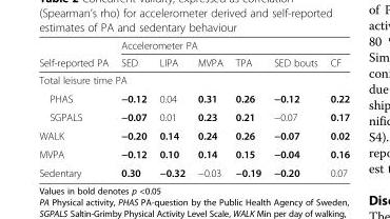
<table><thead><tr><td rowspan="2">Self-reported PA</td><td colspan="6">Accelerometer PA</td></tr><tr><td>SED</td><td>LIPA</td><td>MVPA</td><td>TPA</td><td>SED bouts</td><td>CF</td></tr></thead><tbody><tr><td colspan="7">Total leisure time PA</td></tr><tr><td>PHAS</td><td>−0.12</td><td>0.04</td><td>0.31</td><td>0.26</td><td>−0.12</td><td>0.22</td></tr><tr><td>SGPALS</td><td>−0.07</td><td>0.01</td><td>0.23</td><td>0.21</td><td>−0.07</td><td>0.17</td></tr><tr><td>WALK</td><td>−0.20</td><td>0.14</td><td>0.24</td><td>0.26</td><td>−0.07</td><td>0.02</td></tr><tr><td>MVPA</td><td>−0.12</td><td>0.10</td><td>0.14</td><td>0.15</td><td>−0.04</td><td>0.16</td></tr><tr><td>Sedentary</td><td>0.30</td><td>−0.32</td><td>−0.03</td><td>−0.19</td><td>−0.20</td><td>0.07</td></tr></tbody></table>